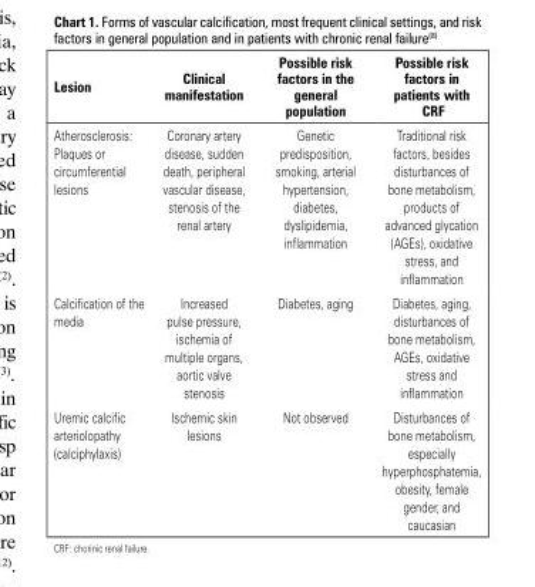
<table><thead><tr><td>Lesion</td><td>Clinical manifestation</td><td>Possible risk factors in the general population</td><td>Possible risk factors in patients with CRF</td></tr></thead><tbody><tr><td>Atherosclerosis: Plaques or circumferential lesions</td><td>Coronary artery disease, sudden death, peripheral vascular disease, stenosis of the renal artery</td><td>Genetic predisposition, smoking, arterial hypertension, diabetes, dyslipidemia, inflammation</td><td>Traditional risk factors, besides disturbances of bone metabolism, products of advanced glycation (AGEs), oxidative stress, and inflammation</td></tr><tr><td>Calcification of the media</td><td>Increased pulse pressure, ischemia of multiple organs, aortic valve stenosis</td><td>Diabetes, aging</td><td>Diabetes, aging, disturbances of bone metabolism, AGEs, oxidative stress and inflammation</td></tr><tr><td>Uremic calcific arteriolopathy (calciphylaxis)</td><td>Ischemic skin lesions</td><td>Not observed</td><td>Disturbances of bone metabolism, especially hyperphosphatemia, obesity, female gender, and caucasian</td></tr></tbody></table>